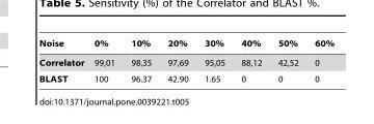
<table><thead><tr><td>Noise</td><td>0%</td><td>10%</td><td>20%</td><td>30%</td><td>40%</td><td>50%</td><td>60%</td></tr></thead><tbody><tr><td>Correlator</td><td>99,01</td><td>98,35</td><td>97,69</td><td>95,05</td><td>88,12</td><td>42,52</td><td>0</td></tr><tr><td>BLAST</td><td>100</td><td>96.37</td><td>42.90</td><td>1.65</td><td>0</td><td>0</td><td>0</td></tr></tbody></table>